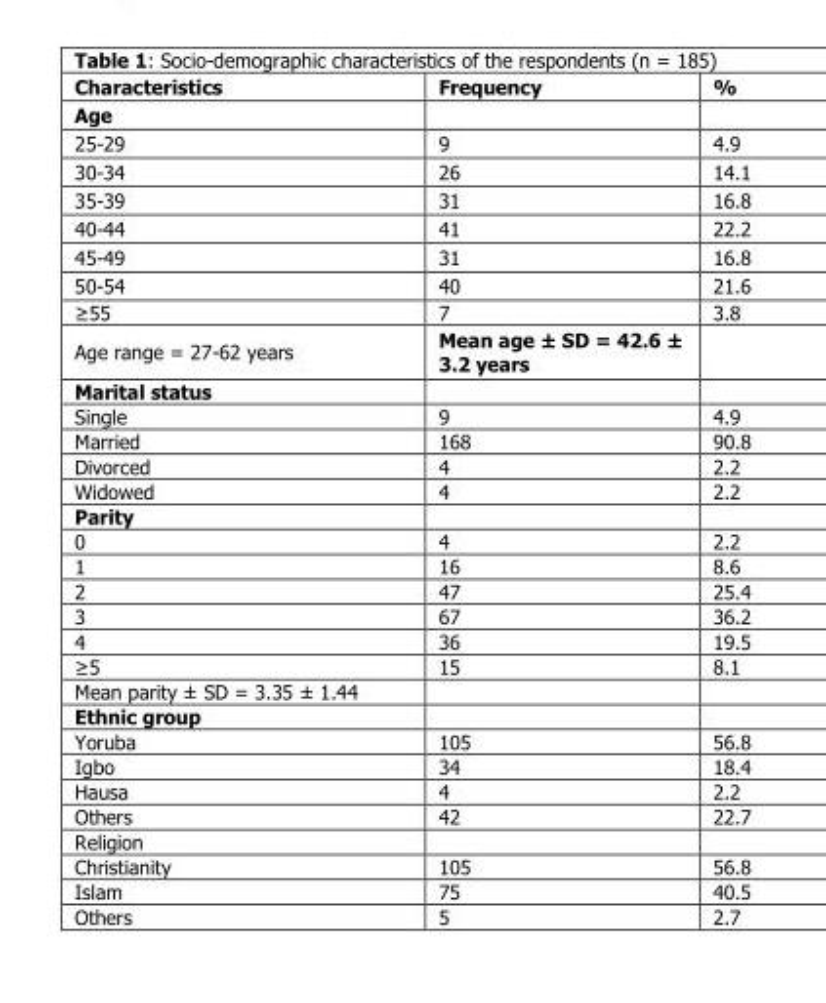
<table><thead><tr><td>Characteristics</td><td>Frequency</td><td>%</td></tr></thead><tbody><tr><td colspan="3">Age</td></tr><tr><td>25-29</td><td>9</td><td>4.9</td></tr><tr><td>30-34</td><td>26</td><td>14.1</td></tr><tr><td>35-39</td><td>31</td><td>16.8</td></tr><tr><td>40-44</td><td>41</td><td>22.2</td></tr><tr><td>45-49</td><td>31</td><td>16.8</td></tr><tr><td>50-54</td><td>40</td><td>21.6</td></tr><tr><td>≥55</td><td>7</td><td>3.8</td></tr><tr><td>Age range = 27-62 years</td><td>Mean age ± SD = 42.6 ± 3.2 years</td><td></td></tr><tr><td colspan="3">Marital status</td></tr><tr><td>Single</td><td>9</td><td>4.9</td></tr><tr><td>Married</td><td>168</td><td>90.8</td></tr><tr><td>Divorced</td><td>4</td><td>2.2</td></tr><tr><td>Widowed</td><td>4</td><td>2.2</td></tr><tr><td colspan="3">Parity</td></tr><tr><td>0</td><td>4</td><td>2.2</td></tr><tr><td>1</td><td>16</td><td>8.6</td></tr><tr><td>2</td><td>47</td><td>25.4</td></tr><tr><td>3</td><td>67</td><td>36.2</td></tr><tr><td>4</td><td>36</td><td>19.5</td></tr><tr><td>≥5</td><td>15</td><td>8.1</td></tr><tr><td colspan="3">Mean parity ± SD = 3.35 ± 1.44</td></tr><tr><td colspan="3">Ethnic group</td></tr><tr><td>Yoruba</td><td>105</td><td>56.8</td></tr><tr><td>Igbo</td><td>34</td><td>18.4</td></tr><tr><td>Hausa</td><td>4</td><td>2.2</td></tr><tr><td>Others</td><td>42</td><td>22.7</td></tr><tr><td colspan="3">Religion</td></tr><tr><td>Christianity</td><td>105</td><td>56.8</td></tr><tr><td>Islam</td><td>75</td><td>40.5</td></tr><tr><td>Others</td><td>5</td><td>2.7</td></tr></tbody></table>